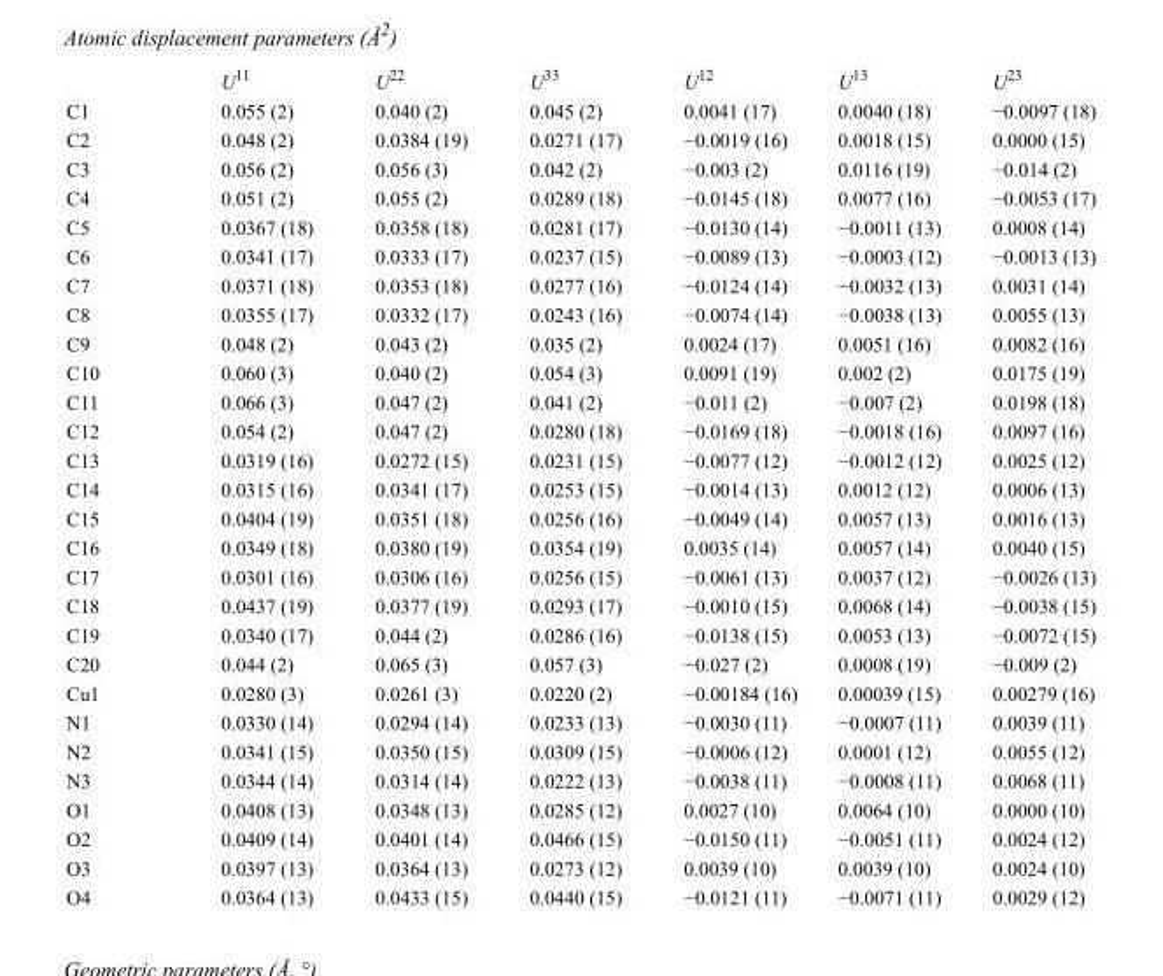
<table><thead><tr><td></td><td>U<sup>11</sup></td><td>U<sup>22</sup></td><td>U<sup>33</sup></td><td>U<sup>12</sup></td><td>U<sup>13</sup></td><td>U<sup>23</sup></td></tr></thead><tbody><tr><td>C1</td><td>0.055 (2)</td><td>0.040 (2)</td><td>0.045 (2)</td><td>0.0041 (17)</td><td>0.0040 (18)</td><td>−0.0097 (18)</td></tr><tr><td>C2</td><td>0.048 (2)</td><td>0.0384 (19)</td><td>0.0271 (17)</td><td>−0.0019 (16)</td><td>0.0018 (15)</td><td>0.0000 (15)</td></tr><tr><td>C3</td><td>0.056 (2)</td><td>0.056 (3)</td><td>0.042 (2)</td><td>−0.003 (2)</td><td>0.0116 (19)</td><td>−0.014 (2)</td></tr><tr><td>C4</td><td>0.051 (2)</td><td>0.055 (2)</td><td>0.0289 (18)</td><td>−0.0145 (18)</td><td>0.0077 (16)</td><td>−0.0053 (17)</td></tr><tr><td>C5</td><td>0.0367 (18)</td><td>0.0358 (18)</td><td>0.0281 (17)</td><td>−0.0130 (14)</td><td>−0.0011 (13)</td><td>0.0008 (14)</td></tr><tr><td>C6</td><td>0.0341 (17)</td><td>0.0333 (17)</td><td>0.0237 (15)</td><td>−0.0089 (13)</td><td>−0.0003 (12)</td><td>−0.0013 (13)</td></tr><tr><td>C7</td><td>0.0371 (18)</td><td>0.0353 (18)</td><td>0.0277 (16)</td><td>−0.0124 (14)</td><td>−0.0032 (13)</td><td>0.0031 (14)</td></tr><tr><td>C8</td><td>0.0355 (17)</td><td>0.0332 (17)</td><td>0.0243 (16)</td><td>−0.0074 (14)</td><td>−0.0038 (13)</td><td>0.0055 (13)</td></tr><tr><td>C9</td><td>0.048 (2)</td><td>0.043 (2)</td><td>0.035 (2)</td><td>0.0024 (17)</td><td>0.0051 (16)</td><td>0.0082 (16)</td></tr><tr><td>C10</td><td>0.060 (3)</td><td>0.040 (2)</td><td>0.054 (3)</td><td>0.0091 (19)</td><td>0.002 (2)</td><td>0.0175 (19)</td></tr><tr><td>C11</td><td>0.066 (3)</td><td>0.047 (2)</td><td>0.041 (2)</td><td>−0.011 (2)</td><td>−0.007 (2)</td><td>0.0198 (18)</td></tr><tr><td>C12</td><td>0.054 (2)</td><td>0.047 (2)</td><td>0.0280 (18)</td><td>−0.0169 (18)</td><td>−0.0018 (16)</td><td>0.0097 (16)</td></tr><tr><td>C13</td><td>0.0319 (16)</td><td>0.0272 (15)</td><td>0.0231 (15)</td><td>−0.0077 (12)</td><td>−0.0012 (12)</td><td>0.0025 (12)</td></tr><tr><td>C14</td><td>0.0315 (16)</td><td>0.0341 (17)</td><td>0.0253 (15)</td><td>−0.0014 (13)</td><td>0.0012 (12)</td><td>0.0006 (13)</td></tr><tr><td>C15</td><td>0.0404 (19)</td><td>0.0351 (18)</td><td>0.0256 (16)</td><td>−0.0049 (14)</td><td>0.0057 (13)</td><td>0.0016 (13)</td></tr><tr><td>C16</td><td>0.0349 (18)</td><td>0.0380 (19)</td><td>0.0354 (19)</td><td>0.0035 (14)</td><td>0.0057 (14)</td><td>0.0040 (15)</td></tr><tr><td>C17</td><td>0.0301 (16)</td><td>0.0306 (16)</td><td>0.0256 (15)</td><td>−0.0061 (13)</td><td>0.0037 (12)</td><td>−0.0026 (13)</td></tr><tr><td>C18</td><td>0.0437 (19)</td><td>0.0377 (19)</td><td>0.0293 (17)</td><td>−0.0010 (15)</td><td>0.0068 (14)</td><td>−0.0038 (15)</td></tr><tr><td>C19</td><td>0.0340 (17)</td><td>0.044 (2)</td><td>0.0286 (16)</td><td>−0.0138 (15)</td><td>0.0053 (13)</td><td>−0.0072 (15)</td></tr><tr><td>C20</td><td>0.044 (2)</td><td>0.065 (3)</td><td>0.057 (3)</td><td>−0.027 (2)</td><td>0.0008 (19)</td><td>−0.009 (2)</td></tr><tr><td>Cu1</td><td>0.0280 (3)</td><td>0.0261 (3)</td><td>0.0220 (2)</td><td>−0.00184 (16)</td><td>0.00039 (15)</td><td>0.00279 (16)</td></tr><tr><td>N1</td><td>0.0330 (14)</td><td>0.0294 (14)</td><td>0.0233 (13)</td><td>−0.0030 (11)</td><td>−0.0007 (11)</td><td>0.0039 (11)</td></tr><tr><td>N2</td><td>0.0341 (15)</td><td>0.0350 (15)</td><td>0.0309 (15)</td><td>−0.0006 (12)</td><td>0.0001 (12)</td><td>0.0055 (12)</td></tr><tr><td>N3</td><td>0.0344 (14)</td><td>0.0314 (14)</td><td>0.0222 (13)</td><td>−0.0038 (11)</td><td>−0.0008 (11)</td><td>0.0068 (11)</td></tr><tr><td>O1</td><td>0.0408 (13)</td><td>0.0348 (13)</td><td>0.0285 (12)</td><td>0.0027 (10)</td><td>0.0064 (10)</td><td>0.0000 (10)</td></tr><tr><td>O2</td><td>0.0409 (14)</td><td>0.0401 (14)</td><td>0.0466 (15)</td><td>−0.0150 (11)</td><td>−0.0051 (11)</td><td>0.0024 (12)</td></tr><tr><td>O3</td><td>0.0397 (13)</td><td>0.0364 (13)</td><td>0.0273 (12)</td><td>0.0039 (10)</td><td>0.0039 (10)</td><td>0.0024 (10)</td></tr><tr><td>O4</td><td>0.0364 (13)</td><td>0.0433 (15)</td><td>0.0440 (15)</td><td>−0.0121 (11)</td><td>−0.0071 (11)</td><td>0.0029 (12)</td></tr></tbody></table>